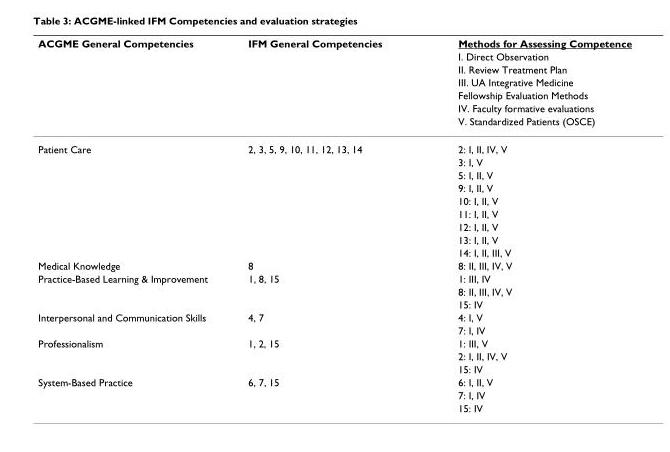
<table><thead><tr><td rowspan="7">ACGME General Competencies</td><td rowspan="7">IFM General Competencies</td><td rowspan="7">Methods for Assessing Competence I. Direct Observation II. Review Treatment Plan III. UA Integrative Medicine Fellowship Evaluation Methods IV. Faculty formative evaluations V. Standardized Patients (OSCE)</td></tr><tr></tr><tr></tr><tr></tr><tr></tr><tr></tr><tr></tr></thead><tbody><tr><td rowspan="9">Patient Care</td><td>2, 3, 5, 9, 10, 11, 12, 13, 14</td><td>2: I, II, IV, V</td></tr><tr><td></td><td>3: I, V</td></tr><tr><td></td><td>5: I, II, V</td></tr><tr><td></td><td>9: I, II, V</td></tr><tr><td></td><td>10: I, II, V</td></tr><tr><td></td><td>11: I, II, V</td></tr><tr><td></td><td>12: I, II, V</td></tr><tr><td></td><td>13: I, II, V</td></tr><tr><td></td><td>14: I, II, III, V</td></tr><tr><td>Medical Knowledge</td><td>8</td><td>8: II, III, IV, V</td></tr><tr><td rowspan="3">Practice-Based Learning &amp; Improvement</td><td>1, 8, 15</td><td>1: III, IV</td></tr><tr><td></td><td>8: II, III, IV, V</td></tr><tr><td></td><td>15: IV</td></tr><tr><td rowspan="2">Interpersonal and Communication Skills</td><td>4, 7</td><td>4: I, V</td></tr><tr><td></td><td>7: I, IV</td></tr><tr><td rowspan="3">Professionalism</td><td>1, 2, 15</td><td>1: III, V</td></tr><tr><td></td><td>2: I, II, IV, V</td></tr><tr><td></td><td>15: IV</td></tr><tr><td rowspan="3">System-Based Practice</td><td>6, 7, 15</td><td>6: I, II, V</td></tr><tr><td></td><td>7: I, IV</td></tr><tr><td></td><td>15: IV</td></tr></tbody></table>